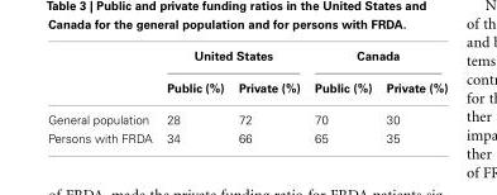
<table><thead><tr><td rowspan="2"></td><td colspan="2">United States</td><td colspan="2">Canada</td></tr><tr><td>Public (%)</td><td>Private (%)</td><td>Public (%)</td><td>Private (%)</td></tr></thead><tbody><tr><td>General population</td><td>28</td><td>72</td><td>70</td><td>30</td></tr><tr><td>Persons with FRDA</td><td>34</td><td>66</td><td>65</td><td>35</td></tr></tbody></table>